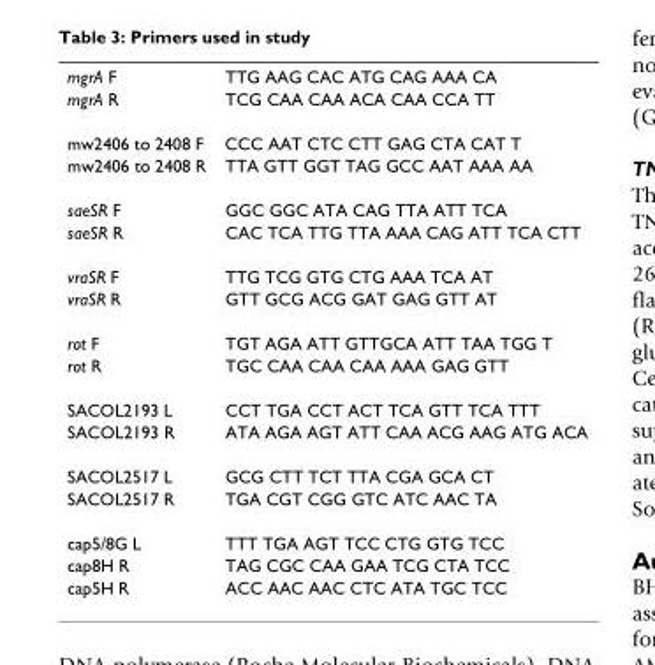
<table><tbody><tr><td>mgrA F</td><td>TTG AAG CAC ATG CAG AAA CA</td></tr><tr><td>mgrA R</td><td>TCG CAA CAA ACA CAA CCA TT</td></tr><tr><td>mw2406 to 2408 F</td><td>CCC AAT CTC CTT GAG CTA CAT T</td></tr><tr><td>mw2406 to 2408 R</td><td>TTA GTT GGT TAG GCC AAT AAA AA</td></tr><tr><td>saeSR F</td><td>GGC GGC ATA CAG TTA ATT TCA</td></tr><tr><td>saeSR R</td><td>CAC TCA TTG TTA AAA CAG ATT TCA CTT</td></tr><tr><td>vraSR F</td><td>TTG TCG GTG CTG AAA TCA AT</td></tr><tr><td>vraSR R</td><td>GTT GCG ACG GAT GAG GTT AT</td></tr><tr><td>rot F</td><td>TGT AGA ATT GTTGCA ATT TAA TGG T</td></tr><tr><td>rot R</td><td>TGC CAA CAA CAA AAA GAG GTT</td></tr><tr><td>SACOL2193 L</td><td>CCT TGA CCT ACT TCA GTT TCA TTT</td></tr><tr><td>SACOL2193 R</td><td>ATA AGA AGT ATT CAA ACG AAG ATG ACA</td></tr><tr><td>SACOL2517 L</td><td>GCG CTT TCT TTA CGA GCA CT</td></tr><tr><td>SACOL2517 R</td><td>TGA CGT CGG GTC ATC AAC TA</td></tr><tr><td>cap5/8G L</td><td>TTT TGA AGT TCC CTG GTG TCC</td></tr><tr><td>cap8H R</td><td>TAG CGC CAA GAA TCG CTA TCC</td></tr><tr><td>cap5H R</td><td>ACC AAC AAC CTC ATA TGC TCC</td></tr></tbody></table>